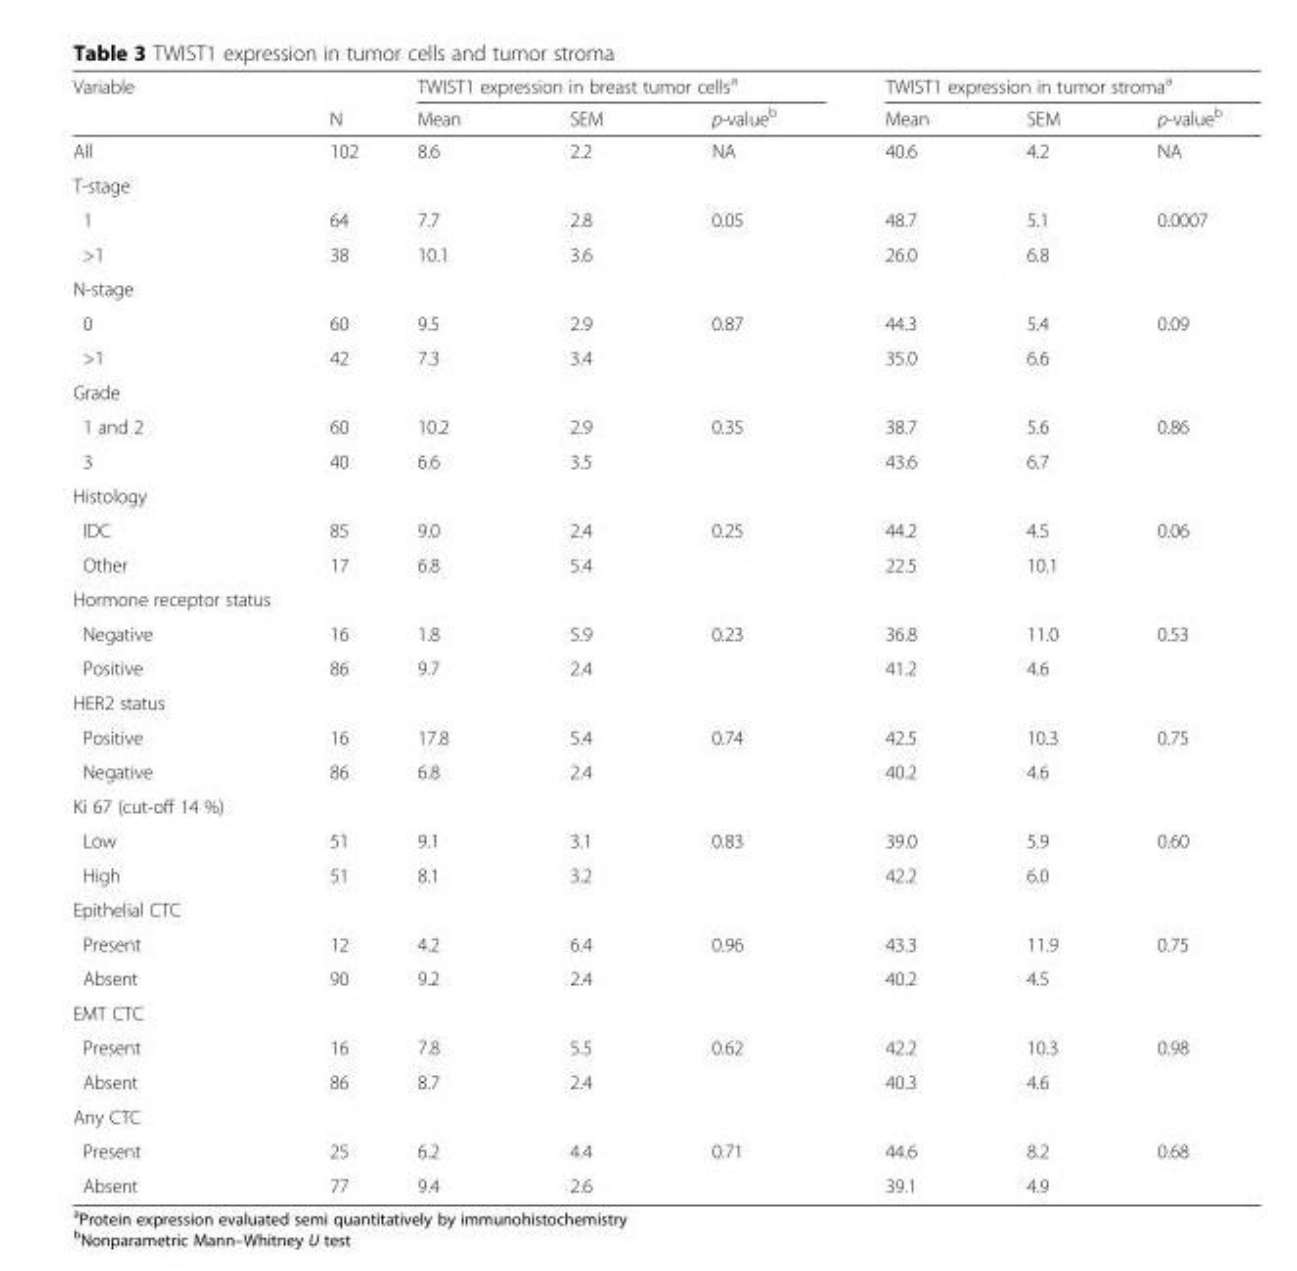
<table><thead><tr><td rowspan="2">Variable</td><td rowspan="2">N</td><td colspan="3">TWIST1 expression in breast tumor cells<sup>a</sup></td><td colspan="3">TWIST1 expression in tumor stroma<sup>a</sup></td></tr><tr><td>Mean</td><td>SEM</td><td>p-value<sup>b</sup></td><td>Mean</td><td>SEM</td><td>p-value<sup>b</sup></td></tr></thead><tbody><tr><td>All</td><td>102</td><td>8.6</td><td>2.2</td><td>NA</td><td>40.6</td><td>4.2</td><td>NA</td></tr><tr><td colspan="8">T-stage</td></tr><tr><td>1</td><td>64</td><td>7.7</td><td>2.8</td><td>0.05</td><td>48.7</td><td>5.1</td><td>0.0007</td></tr><tr><td>&gt;1</td><td>38</td><td>10.1</td><td>3.6</td><td></td><td>26.0</td><td>6.8</td><td></td></tr><tr><td colspan="8">N-stage</td></tr><tr><td>0</td><td>60</td><td>9.5</td><td>2.9</td><td>0.87</td><td>44.3</td><td>5.4</td><td>0.09</td></tr><tr><td>&gt;1</td><td>42</td><td>7.3</td><td>3.4</td><td></td><td>35.0</td><td>6.6</td><td></td></tr><tr><td colspan="8">Grade</td></tr><tr><td>1 and 2</td><td>60</td><td>10.2</td><td>2.9</td><td>0.35</td><td>38.7</td><td>5.6</td><td>0.86</td></tr><tr><td>3</td><td>40</td><td>6.6</td><td>3.5</td><td></td><td>43.6</td><td>6.7</td><td></td></tr><tr><td colspan="8">Histology</td></tr><tr><td>IDC</td><td>85</td><td>9.0</td><td>2.4</td><td>0.25</td><td>44.2</td><td>4.5</td><td>0.06</td></tr><tr><td>Other</td><td>17</td><td>6.8</td><td>5.4</td><td></td><td>22.5</td><td>10.1</td><td></td></tr><tr><td colspan="8">Hormone receptor status</td></tr><tr><td>Negative</td><td>16</td><td>1.8</td><td>5.9</td><td>0.23</td><td>36.8</td><td>11.0</td><td>0.53</td></tr><tr><td>Positive</td><td>86</td><td>9.7</td><td>2.4</td><td></td><td>41.2</td><td>4.6</td><td></td></tr><tr><td colspan="8">HER2 status</td></tr><tr><td>Positive</td><td>16</td><td>17.8</td><td>5.4</td><td>0.74</td><td>42.5</td><td>10.3</td><td>0.75</td></tr><tr><td>Negative</td><td>86</td><td>6.8</td><td>2.4</td><td></td><td>40.2</td><td>4.6</td><td></td></tr><tr><td colspan="8">Ki 67 (cut-off 14 %)</td></tr><tr><td>Low</td><td>51</td><td>9.1</td><td>3.1</td><td>0.83</td><td>39.0</td><td>5.9</td><td>0.60</td></tr><tr><td>High</td><td>51</td><td>8.1</td><td>3.2</td><td></td><td>42.2</td><td>6.0</td><td></td></tr><tr><td colspan="8">Epithelial CTC</td></tr><tr><td>Present</td><td>12</td><td>4.2</td><td>6.4</td><td>0.96</td><td>43.3</td><td>11.9</td><td>0.75</td></tr><tr><td>Absent</td><td>90</td><td>9.2</td><td>2.4</td><td></td><td>40.2</td><td>4.5</td><td></td></tr><tr><td colspan="8">EMT CTC</td></tr><tr><td>Present</td><td>16</td><td>7.8</td><td>5.5</td><td>0.62</td><td>42.2</td><td>10.3</td><td>0.98</td></tr><tr><td>Absent</td><td>86</td><td>8.7</td><td>2.4</td><td></td><td>40.3</td><td>4.6</td><td></td></tr><tr><td colspan="8">Any CTC</td></tr><tr><td>Present</td><td>25</td><td>6.2</td><td>4.4</td><td>0.71</td><td>44.6</td><td>8.2</td><td>0.68</td></tr><tr><td>Absent</td><td>77</td><td>9.4</td><td>2.6</td><td></td><td>39.1</td><td>4.9</td><td></td></tr></tbody></table>